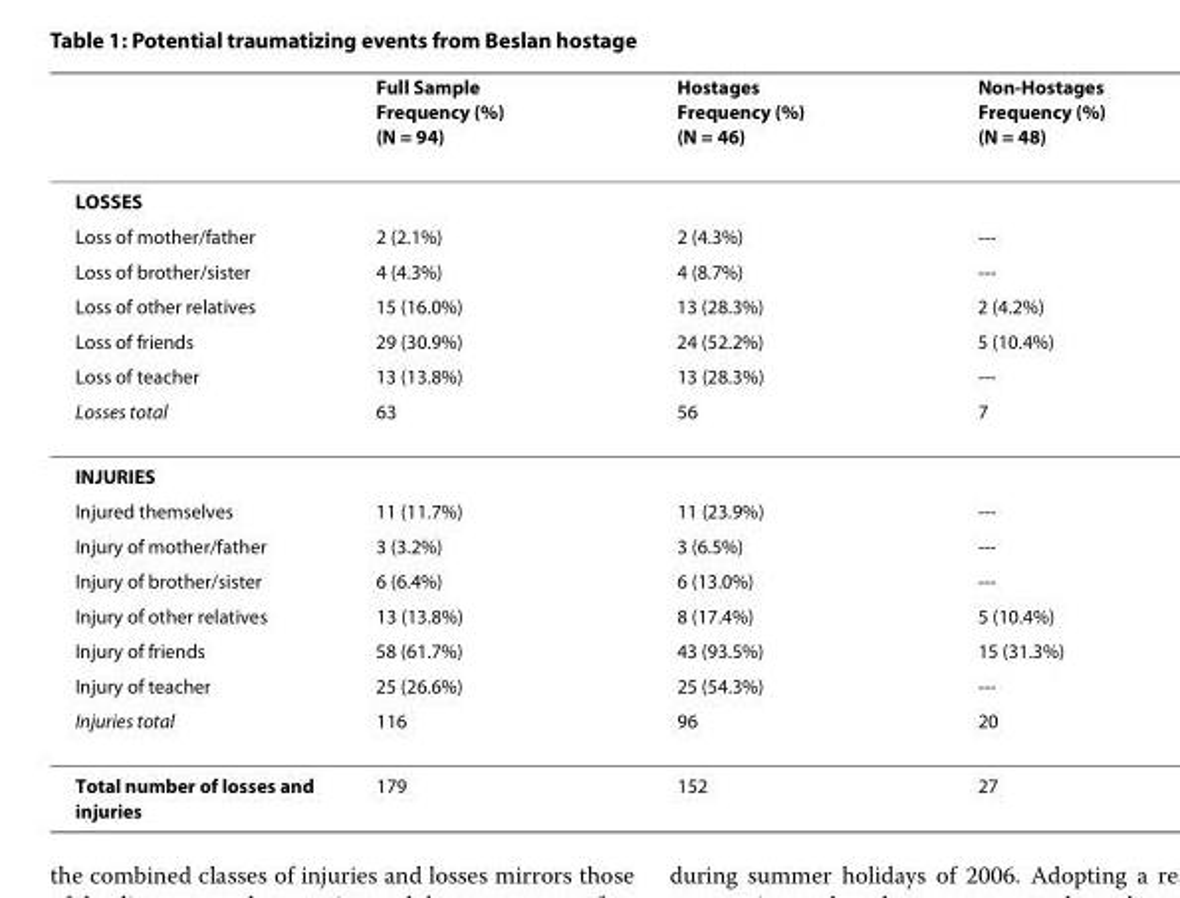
<table><thead><tr><td></td><td>Full Sample Frequency (%) (N = 94)</td><td>Hostages Frequency (%) (N = 46)</td><td>Non-Hostages Frequency (%) (N = 48)</td></tr></thead><tbody><tr><td colspan="4">LOSSES</td></tr><tr><td>Loss of mother/father</td><td>2 (2.1%)</td><td>2 (4.3%)</td><td>---</td></tr><tr><td>Loss of brother/sister</td><td>4 (4.3%)</td><td>4 (8.7%)</td><td>---</td></tr><tr><td>Loss of other relatives</td><td>15 (16.0%)</td><td>13 (28.3%)</td><td>2 (4.2%)</td></tr><tr><td>Loss of friends</td><td>29 (30.9%)</td><td>24 (52.2%)</td><td>5 (10.4%)</td></tr><tr><td>Loss of teacher</td><td>13 (13.8%)</td><td>13 (28.3%)</td><td>---</td></tr><tr><td>Losses total</td><td>63</td><td>56</td><td>7</td></tr><tr><td colspan="4">INJURIES</td></tr><tr><td>Injured themselves</td><td>11 (11.7%)</td><td>11 (23.9%)</td><td>---</td></tr><tr><td>Injury of mother/father</td><td>3 (3.2%)</td><td>3 (6.5%)</td><td>---</td></tr><tr><td>Injury of brother/sister</td><td>6 (6.4%)</td><td>6 (13.0%)</td><td>---</td></tr><tr><td>Injury of other relatives</td><td>13 (13.8%)</td><td>8 (17.4%)</td><td>5 (10.4%)</td></tr><tr><td>Injury of friends</td><td>58 (61.7%)</td><td>43 (93.5%)</td><td>15 (31.3%)</td></tr><tr><td>Injury of teacher</td><td>25 (26.6%)</td><td>25 (54.3%)</td><td>---</td></tr><tr><td>Injuries total</td><td>116</td><td>96</td><td>20</td></tr><tr><td>Total number of losses and injuries</td><td>179</td><td>152</td><td>27</td></tr></tbody></table>